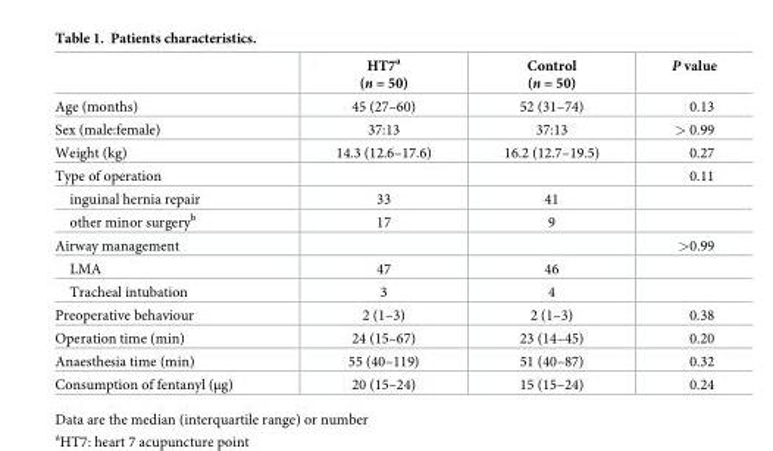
<table><thead><tr><td></td><td>HT7<sup>a</sup> (n = 50)</td><td>Control (n = 50)</td><td>P value</td></tr></thead><tbody><tr><td>Age (months)</td><td>45 (27–60)</td><td>52 (31–74)</td><td>0.13</td></tr><tr><td>Sex (male:female)</td><td>37:13</td><td>37:13</td><td>&gt; 0.99</td></tr><tr><td>Weight (kg)</td><td>14.3 (12.6–17.6)</td><td>16.2 (12.7–19.5)</td><td>0.27</td></tr><tr><td>Type of operation</td><td></td><td></td><td>0.11</td></tr><tr><td>inguinal hernia repair</td><td>33</td><td>41</td><td></td></tr><tr><td>other minor surgery<sup>b</sup></td><td>17</td><td>9</td><td></td></tr><tr><td>Airway management</td><td></td><td></td><td>&gt;0.99</td></tr><tr><td>LMA</td><td>47</td><td>46</td><td></td></tr><tr><td>Tracheal intubation</td><td>3</td><td>4</td><td></td></tr><tr><td>Preoperative behaviour</td><td>2 (1–3)</td><td>2 (1–3)</td><td>0.38</td></tr><tr><td>Operation time (min)</td><td>24 (15–67)</td><td>23 (14–45)</td><td>0.20</td></tr><tr><td>Anaesthesia time (min)</td><td>55 (40–119)</td><td>51 (40–87)</td><td>0.32</td></tr><tr><td>Consumption of fentanyl (μg)</td><td>20 (15–24)</td><td>15 (15–24)</td><td>0.24</td></tr></tbody></table>